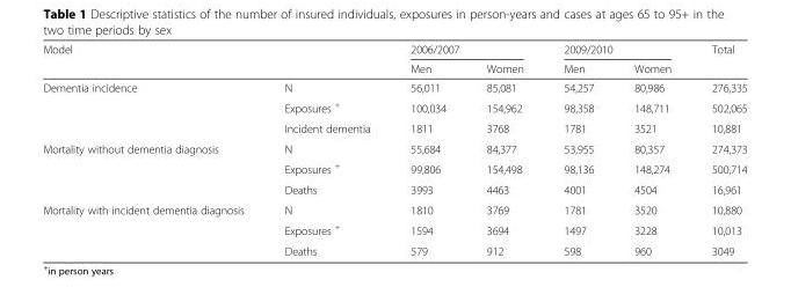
<table><thead><tr><td rowspan="2">Model</td><td rowspan="2"></td><td colspan="2">2006/2007</td><td colspan="2">2009/2010</td><td rowspan="2">Total</td></tr><tr><td>Men</td><td>Women</td><td>Men</td><td>Women</td></tr></thead><tbody><tr><td rowspan="3">Dementia incidence</td><td>N</td><td>56,011</td><td>85,081</td><td>54,257</td><td>80,986</td><td>276,335</td></tr><tr><td>Exposures <sup>+</sup></td><td>100,034</td><td>154,962</td><td>98,358</td><td>148,711</td><td>502,065</td></tr><tr><td>Incident dementia</td><td>1811</td><td>3768</td><td>1781</td><td>3521</td><td>10,881</td></tr><tr><td rowspan="3">Mortality without dementia diagnosis</td><td>N</td><td>55,684</td><td>84,377</td><td>53,955</td><td>80,357</td><td>274,373</td></tr><tr><td>Exposures <sup>+</sup></td><td>99,806</td><td>154,498</td><td>98,136</td><td>148,274</td><td>500,714</td></tr><tr><td>Deaths</td><td>3993</td><td>4463</td><td>4001</td><td>4504</td><td>16,961</td></tr><tr><td rowspan="3">Mortality with incident dementia diagnosis</td><td>N</td><td>1810</td><td>3769</td><td>1781</td><td>3520</td><td>10,880</td></tr><tr><td>Exposures <sup>+</sup></td><td>1594</td><td>3694</td><td>1497</td><td>3228</td><td>10,013</td></tr><tr><td>Deaths</td><td>579</td><td>912</td><td>598</td><td>960</td><td>3049</td></tr></tbody></table>